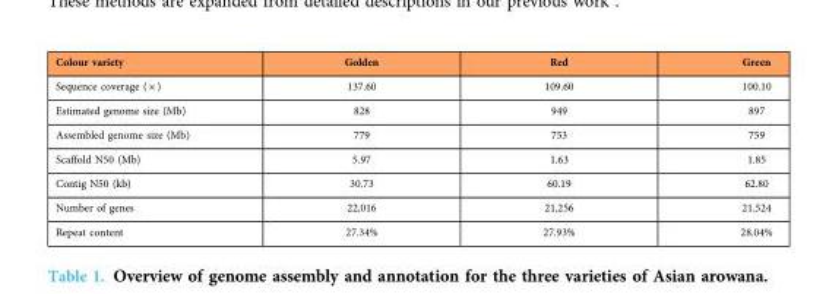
<table><thead><tr><td>Colour variety</td><td>Golden</td><td>Red</td><td>Green</td></tr></thead><tbody><tr><td>Sequence coverage ( × )</td><td>137.60</td><td>109.60</td><td>100.10</td></tr><tr><td>Estimated genome size (Mb)</td><td>828</td><td>949</td><td>897</td></tr><tr><td>Assembled genome size (Mb)</td><td>779</td><td>753</td><td>759</td></tr><tr><td>Scaffold N50 (Mb)</td><td>5.97</td><td>1.63</td><td>1.85</td></tr><tr><td>Contig N50 (kb)</td><td>30.73</td><td>60.19</td><td>62.80</td></tr><tr><td>Number of genes</td><td>22,016</td><td>21,256</td><td>21,524</td></tr><tr><td>Repeat content</td><td>27.34%</td><td>27.93%</td><td>28.04%</td></tr></tbody></table>